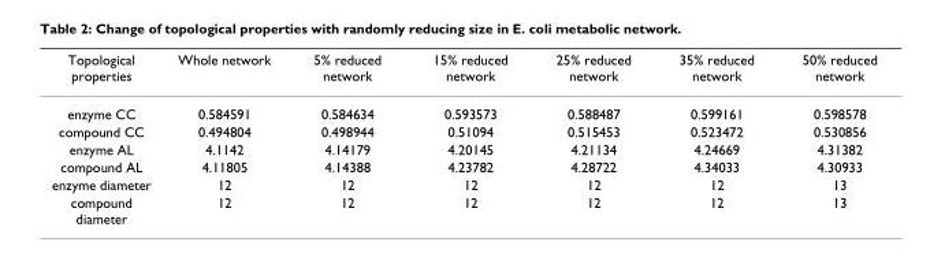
<table><thead><tr><td>Topological properties</td><td>Whole network</td><td>5% reduced network</td><td>15% reduced network</td><td>25% reduced network</td><td>35% reduced network</td><td>50% reduced network</td></tr></thead><tbody><tr><td>enzyme CC</td><td>0.584591</td><td>0.584634</td><td>0.593573</td><td>0.588487</td><td>0.599161</td><td>0.598578</td></tr><tr><td>compound CC</td><td>0.494804</td><td>0.498944</td><td>0.51094</td><td>0.515453</td><td>0.523472</td><td>0.530856</td></tr><tr><td>enzyme AL</td><td>4.1142</td><td>4.14179</td><td>4.20145</td><td>4.21134</td><td>4.24669</td><td>4.31382</td></tr><tr><td>compound AL</td><td>4.11805</td><td>4.14388</td><td>4.23782</td><td>4.28722</td><td>4.34033</td><td>4.30933</td></tr><tr><td>enzyme diameter</td><td>12</td><td>12</td><td>12</td><td>12</td><td>12</td><td>13</td></tr><tr><td>compound diameter</td><td>12</td><td>12</td><td>12</td><td>12</td><td>12</td><td>13</td></tr></tbody></table>